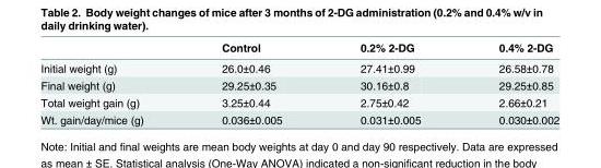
<table><thead><tr><td></td><td>Control</td><td>0.2% 2-DG</td><td>0.4% 2-DG</td></tr></thead><tbody><tr><td>Initial weight (g)</td><td>26.0±0.46</td><td>27.41±0.99</td><td>26.58±0.78</td></tr><tr><td>Final weight (g)</td><td>29.25±0.35</td><td>30.16±0.8</td><td>29.25±0.85</td></tr><tr><td>Total weight gain (g)</td><td>3.25±0.44</td><td>2.75±0.42</td><td>2.66±0.21</td></tr><tr><td>Wt. gain/day/mice (g)</td><td>0.036±0.005</td><td>0.031±0.005</td><td>0.030±0.002</td></tr></tbody></table>